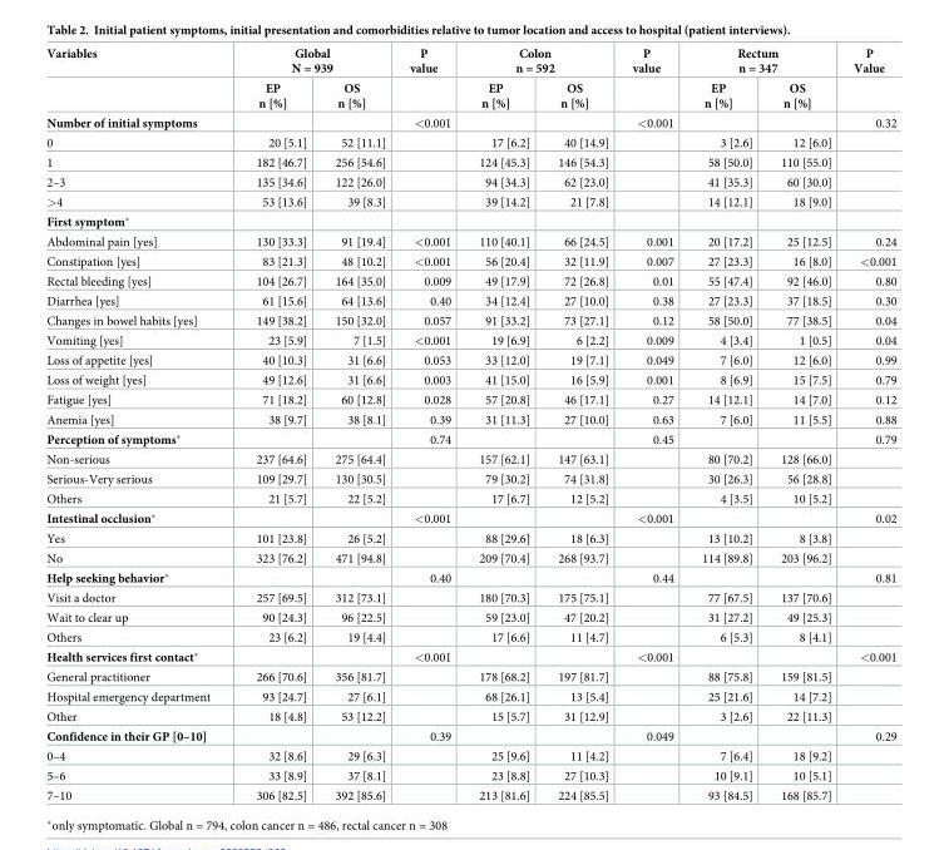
<table><thead><tr><td rowspan="2">Variables</td><td colspan="2">Global N = 939</td><td rowspan="2">P value</td><td colspan="2">Colon n = 592</td><td rowspan="2">P value</td><td colspan="2">Rectum n = 347</td><td rowspan="2">P Value</td></tr><tr><td>EP n [%]</td><td>OS n [%]</td><td>EP n [%]</td><td>OS n [%]</td><td>EP n [%]</td><td>OS n [%]</td></tr></thead><tbody><tr><td>Number of initial symptoms</td><td></td><td></td><td>&lt;0.001</td><td></td><td></td><td>&lt;0.001</td><td></td><td></td><td>0.32</td></tr><tr><td>0</td><td>20 [5.1]</td><td>52 [11.1]</td><td></td><td>17 [6.2]</td><td>40 [14.9]</td><td></td><td>3 [2.6]</td><td>12 [6.0]</td><td></td></tr><tr><td>1</td><td>182 [46.7]</td><td>256 [54.6]</td><td></td><td>124 [45.3]</td><td>146 [54.3]</td><td></td><td>58 [50.0]</td><td>110 [55.0]</td><td></td></tr><tr><td>2–3</td><td>135 [34.6]</td><td>122 [26.0]</td><td></td><td>94 [34.3]</td><td>62 [23.0]</td><td></td><td>41 [35.3]</td><td>60 [30.0]</td><td></td></tr><tr><td>&gt;4</td><td>53 [13.6]</td><td>39 [8.3]</td><td></td><td>39 [14.2]</td><td>21 [7.8]</td><td></td><td>14 [12.1]</td><td>18 [9.0]</td><td></td></tr><tr><td colspan="10">First symptom*</td></tr><tr><td>Abdominal pain [yes]</td><td>130 [33.3]</td><td>91 [19.4]</td><td>&lt;0.001</td><td>110 [40.1]</td><td>66 [24.5]</td><td>0.001</td><td>20 [17.2]</td><td>25 [12.5]</td><td>0.24</td></tr><tr><td>Constipation [yes]</td><td>83 [21.3]</td><td>48 [10.2]</td><td>&lt;0.001</td><td>56 [20.4]</td><td>32 [11.9]</td><td>0.007</td><td>27 [23.3]</td><td>16 [8.0]</td><td>&lt;0.001</td></tr><tr><td>Rectal bleeding [yes]</td><td>104 [26.7]</td><td>164 [35.0]</td><td>0.009</td><td>49 [17.9]</td><td>72 [26.8]</td><td>0.01</td><td>55 [47.4]</td><td>92 [46.0]</td><td>0.80</td></tr><tr><td>Diarrhea [yes]</td><td>61 [15.6]</td><td>64 [13.6]</td><td>0.40</td><td>34 [12.4]</td><td>27 [10.0]</td><td>0.38</td><td>27 [23.3]</td><td>37 [18.5]</td><td>0.30</td></tr><tr><td>Changes in bowel habits [yes]</td><td>149 [38.2]</td><td>150 [32.0]</td><td>0.057</td><td>91 [33.2]</td><td>73 [27.1]</td><td>0.12</td><td>58 [50.0]</td><td>77 [38.5]</td><td>0.04</td></tr><tr><td>Vomiting [yes]</td><td>23 [5.9]</td><td>7 [1.5]</td><td>&lt;0.001</td><td>19 [6.9]</td><td>6 [2.2]</td><td>0.009</td><td>4 [3.4]</td><td>1 [0.5]</td><td>0.04</td></tr><tr><td>Loss of appetite [yes]</td><td>40 [10.3]</td><td>31 [6.6]</td><td>0.053</td><td>33 [12.0]</td><td>19 [7.1]</td><td>0.049</td><td>7 [6.0]</td><td>12 [6.0]</td><td>0.99</td></tr><tr><td>Loss of weight [yes]</td><td>49 [12.6]</td><td>31 [6.6]</td><td>0.003</td><td>41 [15.0]</td><td>16 [5.9]</td><td>0.001</td><td>8 [6.9]</td><td>15 [7.5]</td><td>0.79</td></tr><tr><td>Fatigue [yes]</td><td>71 [18.2]</td><td>60 [12.8]</td><td>0.028</td><td>57 [20.8]</td><td>46 [17.1]</td><td>0.27</td><td>14 [12.1]</td><td>14 [7.0]</td><td>0.12</td></tr><tr><td>Anemia [yes]</td><td>38 [9.7]</td><td>38 [8.1]</td><td>0.39</td><td>31 [11.3]</td><td>27 [10.0]</td><td>0.63</td><td>7 [6.0]</td><td>11 [5.5]</td><td>0.88</td></tr><tr><td>Perception of symptoms*</td><td></td><td></td><td>0.74</td><td></td><td></td><td>0.45</td><td></td><td></td><td>0.79</td></tr><tr><td>Non-serious</td><td>237 [64.6]</td><td>275 [64.4]</td><td></td><td>157 [62.1]</td><td>147 [63.1]</td><td></td><td>80 [70.2]</td><td>128 [66.0]</td><td></td></tr><tr><td>Serious-Very serious</td><td>109 [29.7]</td><td>130 [30.5]</td><td></td><td>79 [30.2]</td><td>74 [31.8]</td><td></td><td>30 [26.3]</td><td>56 [28.8]</td><td></td></tr><tr><td>Others</td><td>21 [5.7]</td><td>22 [5.2]</td><td></td><td>17 [6.7]</td><td>12 [5.2]</td><td></td><td>4 [3.5]</td><td>10 [5.2]</td><td></td></tr><tr><td>Intestinal occlusion*</td><td></td><td></td><td>&lt;0.001</td><td></td><td></td><td>&lt;0.001</td><td></td><td></td><td>0.02</td></tr><tr><td>Yes</td><td>101 [23.8]</td><td>26 [5.2]</td><td></td><td>88 [29.6]</td><td>18 [6.3]</td><td></td><td>13 [10.2]</td><td>8 [3.8]</td><td></td></tr><tr><td>No</td><td>323 [76.2]</td><td>471 [94.8]</td><td></td><td>209 [70.4]</td><td>268 [93.7]</td><td></td><td>114 [89.8]</td><td>203 [96.2]</td><td></td></tr><tr><td>Help seeking behavior*</td><td></td><td></td><td>0.40</td><td></td><td></td><td>0.44</td><td></td><td></td><td>0.81</td></tr><tr><td>Visit a doctor</td><td>257 [69.5]</td><td>312 [73.1]</td><td></td><td>180 [70.3]</td><td>175 [75.1]</td><td></td><td>77 [67.5]</td><td>137 [70.6]</td><td></td></tr><tr><td>Wait to clear up</td><td>90 [24.3]</td><td>96 [22.5]</td><td></td><td>59 [23.0]</td><td>47 [20.2]</td><td></td><td>31 [27.2]</td><td>49 [25.3]</td><td></td></tr><tr><td>Others</td><td>23 [6.2]</td><td>19 [4.4]</td><td></td><td>17 [6.6]</td><td>11 [4.7]</td><td></td><td>6 [5.3]</td><td>8 [4.1]</td><td></td></tr><tr><td>Health services first contact*</td><td></td><td></td><td>&lt;0.001</td><td></td><td></td><td>&lt;0.001</td><td></td><td></td><td>&lt;0.001</td></tr><tr><td>General practitioner</td><td>266 [70.6]</td><td>356 [81.7]</td><td></td><td>178 [68.2]</td><td>197 [81.7]</td><td></td><td>88 [75.8]</td><td>159 [81.5]</td><td></td></tr><tr><td>Hospital emergency department</td><td>93 [24.7]</td><td>27 [6.1]</td><td></td><td>68 [26.1]</td><td>13 [5.4]</td><td></td><td>25 [21.6]</td><td>14 [7.2]</td><td></td></tr><tr><td>Other</td><td>18 [4.8]</td><td>53 [12.2]</td><td></td><td>15 [5.7]</td><td>31 [12.9]</td><td></td><td>3 [2.6]</td><td>22 [11.3]</td><td></td></tr><tr><td>Confidence in their GP [0–10]</td><td></td><td></td><td>0.39</td><td></td><td></td><td>0.049</td><td></td><td></td><td>0.29</td></tr><tr><td>0–4</td><td>32 [8.6]</td><td>29 [6.3]</td><td></td><td>25 [9.6]</td><td>11 [4.2]</td><td></td><td>7 [6.4]</td><td>18 [9.2]</td><td></td></tr><tr><td>5–6</td><td>33 [8.9]</td><td>37 [8.1]</td><td></td><td>23 [8.8]</td><td>27 [10.3]</td><td></td><td>10 [9.1]</td><td>10 [5.1]</td><td></td></tr><tr><td>7–10</td><td>306 [82.5]</td><td>392 [85.6]</td><td></td><td>213 [81.6]</td><td>224 [85.5]</td><td></td><td>93 [84.5]</td><td>168 [85.7]</td><td></td></tr></tbody></table>